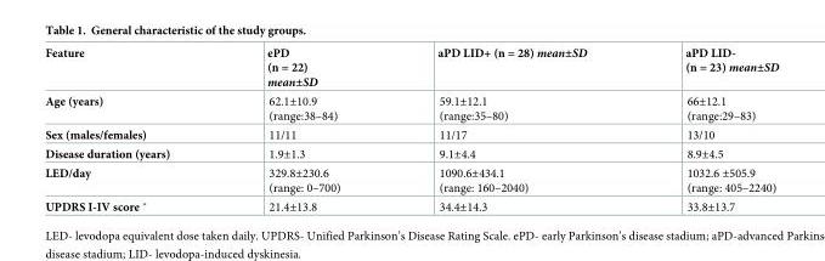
<table><thead><tr><td>Feature</td><td>ePD (n = 22) mean±SD</td><td>aPD LID+ (n = 28) mean±SD</td><td>aPD LID- (n = 23) mean±SD</td></tr></thead><tbody><tr><td>Age (years)</td><td>62.1±10.9 (range:38–84)</td><td>59.1±12.1 (range:35–80)</td><td>66±12.1 (range:29–83)</td></tr><tr><td>Sex (males/females)</td><td>11/11</td><td>11/17</td><td>13/10</td></tr><tr><td>Disease duration (years)</td><td>1.9±1.3</td><td>9.1±4.4</td><td>8.9±4.5</td></tr><tr><td>LED/day</td><td>329.8±230.6 (range: 0–700)</td><td>1090.6±434.1 (range: 160–2040)</td><td>1032.6 ±505.9 (range: 405–2240)</td></tr><tr><td>UPDRS I-IV score *</td><td>21.4±13.8</td><td>34.4±14.3</td><td>33.8±13.7</td></tr></tbody></table>